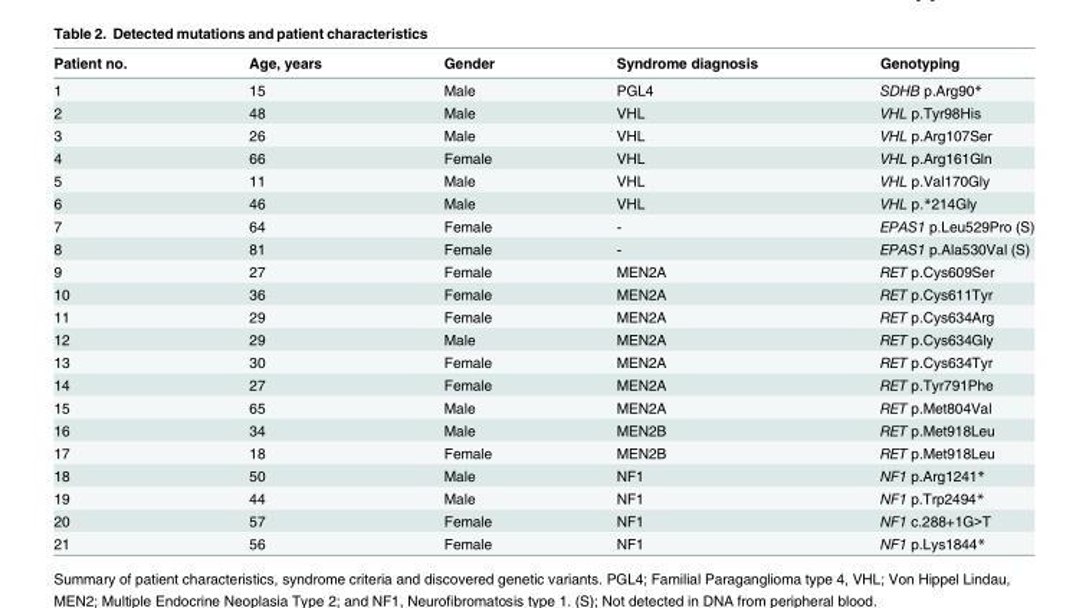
<table><thead><tr><td>Patient no.</td><td>Age, years</td><td>Gender</td><td>Syndrome diagnosis</td><td>Genotyping</td></tr></thead><tbody><tr><td>1</td><td>15</td><td>Male</td><td>PGL4</td><td>SDHB p.Arg90*</td></tr><tr><td>2</td><td>48</td><td>Male</td><td>VHL</td><td>VHL p.Tyr98His</td></tr><tr><td>3</td><td>26</td><td>Male</td><td>VHL</td><td>VHL p.Arg107Ser</td></tr><tr><td>4</td><td>66</td><td>Female</td><td>VHL</td><td>VHL p.Arg161Gln</td></tr><tr><td>5</td><td>11</td><td>Male</td><td>VHL</td><td>VHL p.Val170Gly</td></tr><tr><td>6</td><td>46</td><td>Male</td><td>VHL</td><td>VHL p.*214Gly</td></tr><tr><td>7</td><td>64</td><td>Female</td><td>-</td><td>EPAS1 p.Leu529Pro (S)</td></tr><tr><td>8</td><td>81</td><td>Female</td><td>-</td><td>EPAS1 p.Ala530Val (S)</td></tr><tr><td>9</td><td>27</td><td>Female</td><td>MEN2A</td><td>RET p.Cys609Ser</td></tr><tr><td>10</td><td>36</td><td>Female</td><td>MEN2A</td><td>RET p.Cys611Tyr</td></tr><tr><td>11</td><td>29</td><td>Female</td><td>MEN2A</td><td>RET p.Cys634Arg</td></tr><tr><td>12</td><td>29</td><td>Male</td><td>MEN2A</td><td>RET p.Cys634Gly</td></tr><tr><td>13</td><td>30</td><td>Female</td><td>MEN2A</td><td>RET p.Cys634Tyr</td></tr><tr><td>14</td><td>27</td><td>Female</td><td>MEN2A</td><td>RET p.Tyr791Phe</td></tr><tr><td>15</td><td>65</td><td>Male</td><td>MEN2A</td><td>RET p.Met804Val</td></tr><tr><td>16</td><td>34</td><td>Male</td><td>MEN2B</td><td>RET p.Met918Leu</td></tr><tr><td>17</td><td>18</td><td>Female</td><td>MEN2B</td><td>RET p.Met918Leu</td></tr><tr><td>18</td><td>50</td><td>Male</td><td>NF1</td><td>NF1 p.Arg1241*</td></tr><tr><td>19</td><td>44</td><td>Male</td><td>NF1</td><td>NF1 p.Trp2494*</td></tr><tr><td>20</td><td>57</td><td>Female</td><td>NF1</td><td>NF1 c.288+1G&gt;T</td></tr><tr><td>21</td><td>56</td><td>Female</td><td>NF1</td><td>NF1 p.Lys1844*</td></tr></tbody></table>